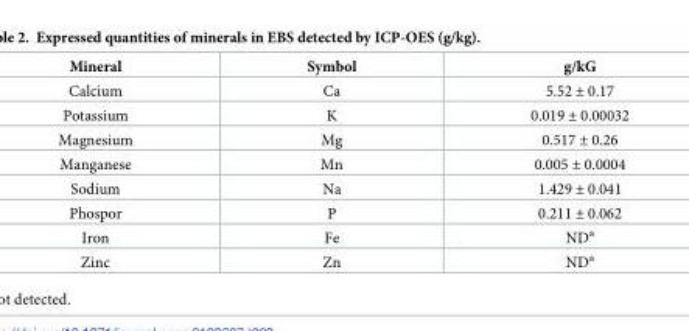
<table><thead><tr><td>Mineral</td><td>Symbol</td><td>g/kG</td></tr></thead><tbody><tr><td>Calcium</td><td>Ca</td><td>5.52 ± 0.17</td></tr><tr><td>Potassium</td><td>K</td><td>0.019 ± 0.00032</td></tr><tr><td>Magnesium</td><td>Mg</td><td>0.517 ± 0.26</td></tr><tr><td>Manganese</td><td>Mn</td><td>0.005 ± 0.0004</td></tr><tr><td>Sodium</td><td>Na</td><td>1.429 ± 0.041</td></tr><tr><td>Phospor</td><td>P</td><td>0.211 ± 0.062</td></tr><tr><td>Iron</td><td>Fe</td><td>ND<sup>a</sup></td></tr><tr><td>Zinc</td><td>Zn</td><td>ND<sup>a</sup></td></tr></tbody></table>